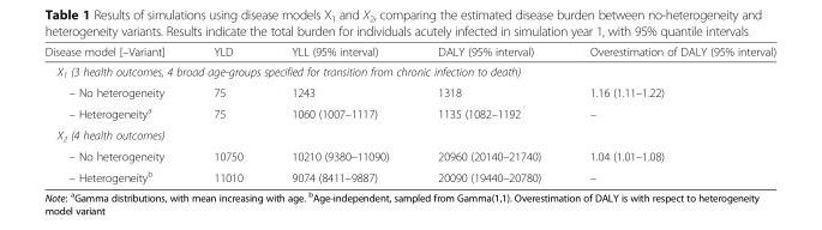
<table><thead><tr><td>Disease model [–Variant]</td><td>YLD</td><td>YLL (95% interval)</td><td>DALY (95% interval)</td><td>Overestimation of DALY (95% interval)</td></tr></thead><tbody><tr><td colspan="5">X<sub>1</sub> (3 health outcomes, 4 broad age-groups specified for transition from chronic infection to death)</td></tr><tr><td>– No heterogeneity</td><td>75</td><td>1243</td><td>1318</td><td>1.16 (1.11–1.22)</td></tr><tr><td>– Heterogeneity<sup>a</sup></td><td>75</td><td>1060 (1007–1117)</td><td>1135 (1082–1192</td><td>–</td></tr><tr><td colspan="5">X<sub>2</sub> (4 health outcomes)</td></tr><tr><td>– No heterogeneity</td><td>10750</td><td>10210 (9380–11090)</td><td>20960 (20140–21740)</td><td>1.04 (1.01–1.08)</td></tr><tr><td>– Heterogeneity<sup>b</sup></td><td>11010</td><td>9074 (8411–9887)</td><td>20090 (19440–20780)</td><td>–</td></tr></tbody></table>